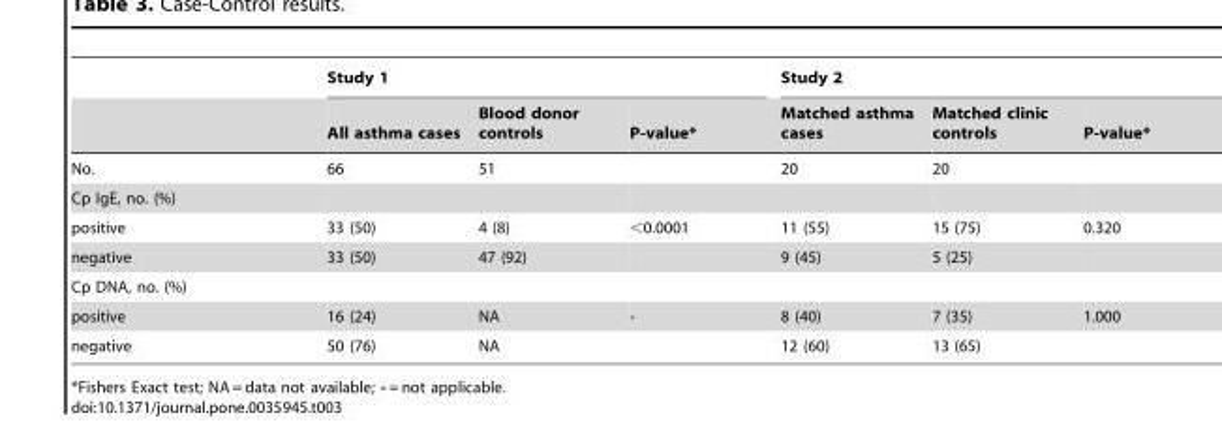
<table><thead><tr><td rowspan="2"></td><td colspan="3">Study 1</td><td colspan="3">Study 2</td></tr><tr><td>All asthma cases</td><td>Blood donor controls</td><td>P-value*</td><td>Matched asthma cases</td><td>Matched clinic controls</td><td>P-value*</td></tr></thead><tbody><tr><td>No.</td><td>66</td><td>51</td><td></td><td>20</td><td>20</td><td></td></tr><tr><td colspan="7">Cp IgE, no. (%)</td></tr><tr><td>positive</td><td>33 (50)</td><td>4 (8)</td><td>&lt;0.0001</td><td>11 (55)</td><td>15 (75)</td><td>0.320</td></tr><tr><td>negative</td><td>33 (50)</td><td>47 (92)</td><td></td><td>9 (45)</td><td>5 (25)</td><td></td></tr><tr><td colspan="7">Cp DNA, no. (%)</td></tr><tr><td>positive</td><td>16 (24)</td><td>NA</td><td>-</td><td>8 (40)</td><td>7 (35)</td><td>1.000</td></tr><tr><td>negative</td><td>50 (76)</td><td>NA</td><td></td><td>12 (60)</td><td>13 (65)</td><td></td></tr></tbody></table>